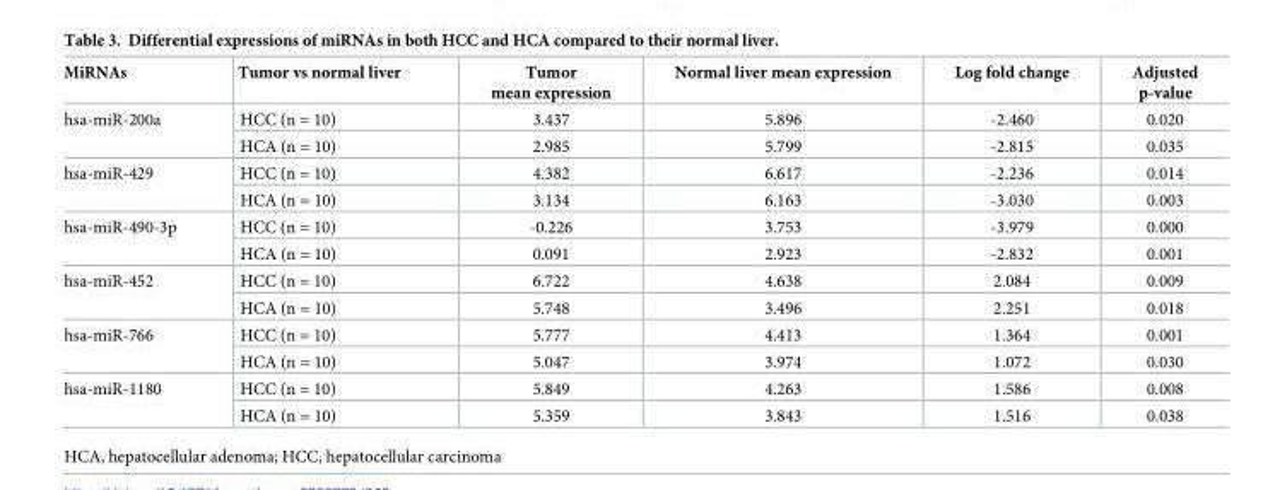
<table><thead><tr><td>MiRNAs</td><td>Tumor vs normal liver</td><td>Tumor mean expression</td><td>Normal liver mean expression</td><td>Log fold change</td><td>Adjusted p-value</td></tr></thead><tbody><tr><td rowspan="2">hsa-miR-200a</td><td>HCC (n = 10)</td><td>3.437</td><td>5.896</td><td>-2.460</td><td>0.020</td></tr><tr><td>HCA (n = 10)</td><td>2.985</td><td>5.799</td><td>-2.815</td><td>0.035</td></tr><tr><td rowspan="2">hsa-miR-429</td><td>HCC (n = 10)</td><td>4.382</td><td>6.617</td><td>-2.236</td><td>0.014</td></tr><tr><td>HCA (n = 10)</td><td>3.134</td><td>6.163</td><td>-3.030</td><td>0.003</td></tr><tr><td rowspan="2">hsa-miR-490-3p</td><td>HCC (n = 10)</td><td>-0.226</td><td>3.753</td><td>-3.979</td><td>0.000</td></tr><tr><td>HCA (n = 10)</td><td>0.091</td><td>2.923</td><td>-2.832</td><td>0.001</td></tr><tr><td rowspan="2">hsa-miR-452</td><td>HCC (n = 10)</td><td>6.722</td><td>4.638</td><td>2.084</td><td>0.009</td></tr><tr><td>HCA (n = 10)</td><td>5.748</td><td>3.496</td><td>2.251</td><td>0.018</td></tr><tr><td rowspan="2">hsa-miR-766</td><td>HCC (n = 10)</td><td>5.777</td><td>4.413</td><td>1.364</td><td>0.001</td></tr><tr><td>HCA (n = 10)</td><td>5.047</td><td>3.974</td><td>1.072</td><td>0.030</td></tr><tr><td rowspan="2">hsa-miR-1180</td><td>HCC (n = 10)</td><td>5.849</td><td>4.263</td><td>1.586</td><td>0.008</td></tr><tr><td>HCA (n = 10)</td><td>5.359</td><td>3.843</td><td>1.516</td><td>0.038</td></tr></tbody></table>